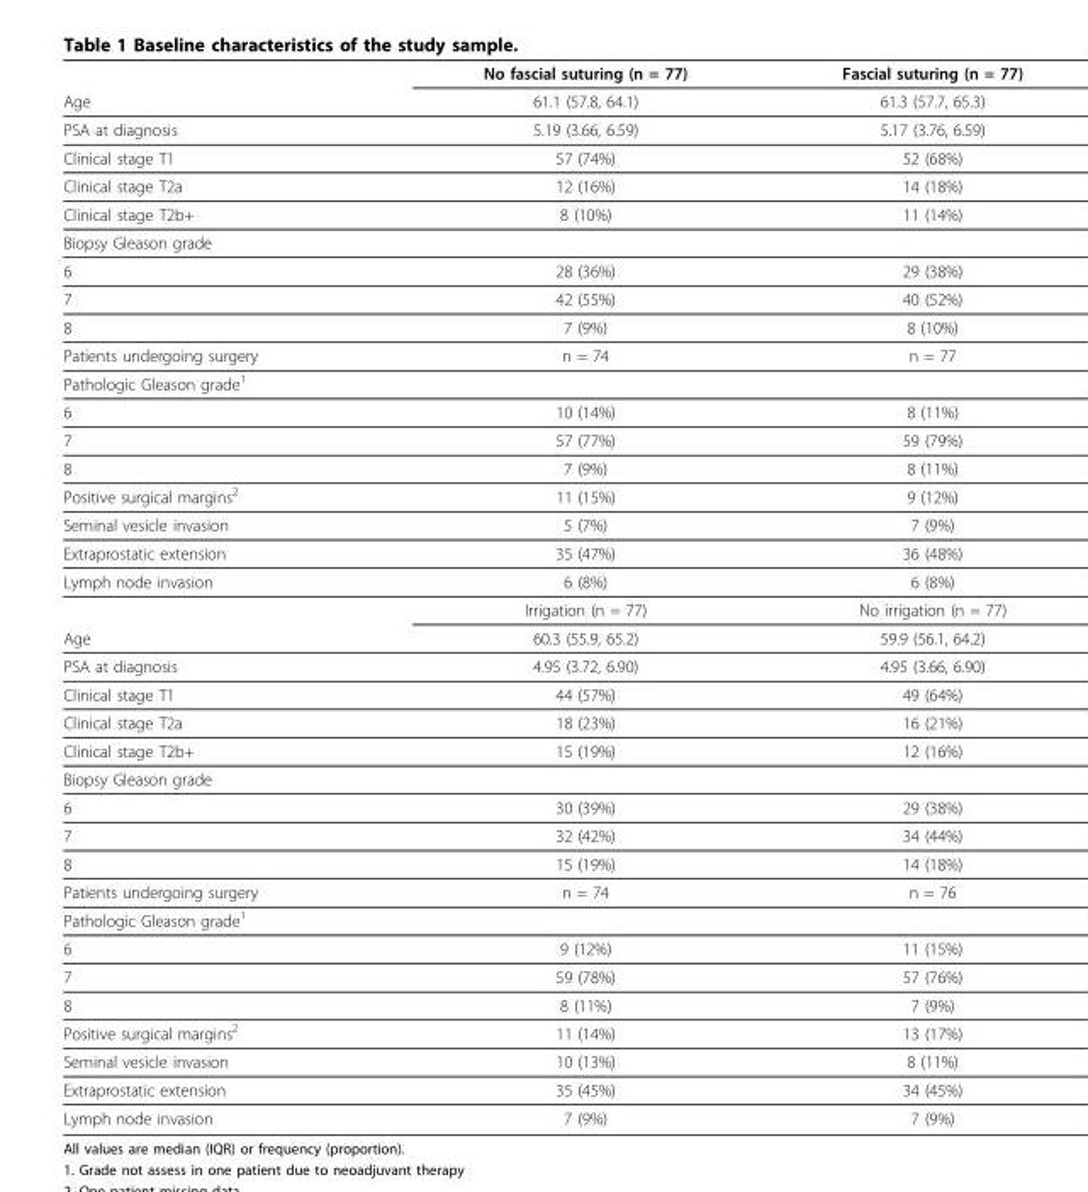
<table><thead><tr><td rowspan="2">Age</td><td rowspan="2">No fascial suturing (n = 77) 61.1 (57.8, 64.1)</td><td rowspan="2">Fascial suturing (n = 77) 61.3 (57.7, 65.3)</td></tr><tr></tr></thead><tbody><tr><td>PSA at diagnosis</td><td>5.19 (3.66, 6.59)</td><td>5.17 (3.76, 6.59)</td></tr><tr><td>Clinical stage T1</td><td>57 (74%)</td><td>52 (68%)</td></tr><tr><td>Clinical stage T2a</td><td>12 (16%)</td><td>14 (18%)</td></tr><tr><td>Clinical stage T2b+</td><td>8 (10%)</td><td>11 (14%)</td></tr><tr><td colspan="3">Biopsy Gleason grade</td></tr><tr><td>6</td><td>28 (36%)</td><td>29 (38%)</td></tr><tr><td>7</td><td>42 (55%)</td><td>40 (52%)</td></tr><tr><td>8</td><td>7 (9%)</td><td>8 (10%)</td></tr><tr><td>Patients undergoing surgery</td><td>n = 74</td><td>n = 77</td></tr><tr><td colspan="3">Pathologic Gleason grade<sup>1</sup></td></tr><tr><td>6</td><td>10 (14%)</td><td>8 (11%)</td></tr><tr><td>7</td><td>57 (77%)</td><td>59 (79%)</td></tr><tr><td>8</td><td>7 (9%)</td><td>8 (11%)</td></tr><tr><td>Positive surgical margins<sup>2</sup></td><td>11 (15%)</td><td>9 (12%)</td></tr><tr><td>Seminal vesicle invasion</td><td>5 (7%)</td><td>7 (9%)</td></tr><tr><td>Extraprostatic extension</td><td>35 (47%)</td><td>36 (48%)</td></tr><tr><td rowspan="2">Lymph node invasion</td><td>6 (8%)</td><td>6 (8%)</td></tr><tr><td>Irrigation (n = 77)</td><td>No irrigation (n = 77)</td></tr><tr><td>Age</td><td>60.3 (55.9, 65.2)</td><td>59.9 (56.1, 64.2)</td></tr><tr><td>PSA at diagnosis</td><td>4.95 (3.72, 6.90)</td><td>4.95 (3.66, 6.90)</td></tr><tr><td>Clinical stage T1</td><td>44 (57%)</td><td>49 (64%)</td></tr><tr><td>Clinical stage T2a</td><td>18 (23%)</td><td>16 (21%)</td></tr><tr><td>Clinical stage T2b+</td><td>15 (19%)</td><td>12 (16%)</td></tr><tr><td colspan="3">Biopsy Gleason grade</td></tr><tr><td>6</td><td>30 (39%)</td><td>29 (38%)</td></tr><tr><td>7</td><td>32 (42%)</td><td>34 (44%)</td></tr><tr><td>8</td><td>15 (19%)</td><td>14 (18%)</td></tr><tr><td>Patients undergoing surgery</td><td>n = 74</td><td>n = 76</td></tr><tr><td colspan="3">Pathologic Gleason grade<sup>1</sup></td></tr><tr><td>6</td><td>9 (12%)</td><td>11 (15%)</td></tr><tr><td>7</td><td>59 (78%)</td><td>57 (76%)</td></tr><tr><td>8</td><td>8 (11%)</td><td>7 (9%)</td></tr><tr><td>Positive surgical margins<sup>2</sup></td><td>11 (14%)</td><td>13 (17%)</td></tr><tr><td>Seminal vesicle invasion</td><td>10 (13%)</td><td>8 (11%)</td></tr><tr><td>Extraprostatic extension</td><td>35 (45%)</td><td>34 (45%)</td></tr><tr><td>Lymph node invasion</td><td>7 (9%)</td><td>7 (9%)</td></tr></tbody></table>